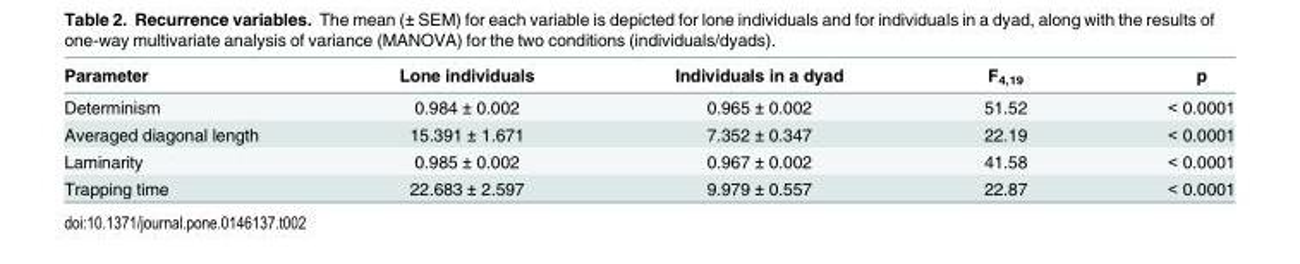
<table><thead><tr><td>Parameter</td><td>Lone individuals</td><td>Individuals in a dyad</td><td>F<sub>4,19</sub></td><td>p</td></tr></thead><tbody><tr><td>Determinism</td><td>0.984 ± 0.002</td><td>0.965 ± 0.002</td><td>51.52</td><td>&lt; 0.0001</td></tr><tr><td>Averaged diagonal length</td><td>15.391 ± 1.671</td><td>7.352 ± 0.347</td><td>22.19</td><td>&lt; 0.0001</td></tr><tr><td>Laminarity</td><td>0.985 ± 0.002</td><td>0.967 ± 0.002</td><td>41.58</td><td>&lt; 0.0001</td></tr><tr><td>Trapping time</td><td>22.683 ± 2.597</td><td>9.979 ± 0.557</td><td>22.87</td><td>&lt; 0.0001</td></tr></tbody></table>